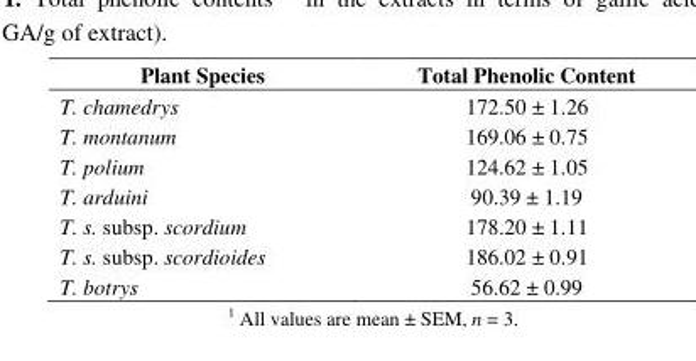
<table><thead><tr><td>Plant Species</td><td>Total Phenolic Content</td></tr></thead><tbody><tr><td>T. chamedrys</td><td>172.50 ± 1.26</td></tr><tr><td>T. montanum</td><td>169.06 ± 0.75</td></tr><tr><td>T. polium</td><td>124.62 ± 1.05</td></tr><tr><td>T. arduini</td><td>90.39 ± 1.19</td></tr><tr><td>T. s. subsp. scordium</td><td>178.20 ± 1.11</td></tr><tr><td>T. s. subsp. scordioides</td><td>186.02 ± 0.91</td></tr><tr><td>T. botrys</td><td>56.62 ± 0.99</td></tr></tbody></table>